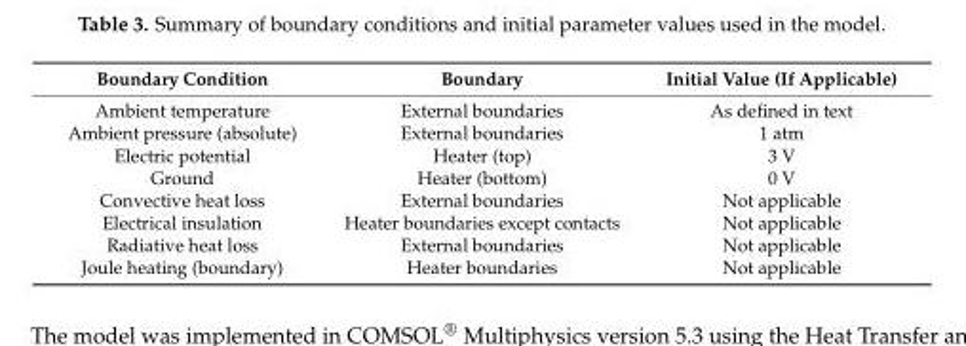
<table><thead><tr><td>Boundary Condition</td><td>Boundary</td><td>Initial Value (If Applicable)</td></tr></thead><tbody><tr><td>Ambient temperature</td><td>External boundaries</td><td>As defined in text</td></tr><tr><td>Ambient pressure (absolute)</td><td>External boundaries</td><td>1 atm</td></tr><tr><td>Electric potential</td><td>Heater (top)</td><td>3 V</td></tr><tr><td>Ground</td><td>Heater (bottom)</td><td>0 V</td></tr><tr><td>Convective heat loss</td><td>External boundaries</td><td>Not applicable</td></tr><tr><td>Electrical insulation</td><td>Heater boundaries except contacts</td><td>Not applicable</td></tr><tr><td>Radiative heat loss</td><td>External boundaries</td><td>Not applicable</td></tr><tr><td>Joule heating (boundary)</td><td>Heater boundaries</td><td>Not applicable</td></tr></tbody></table>